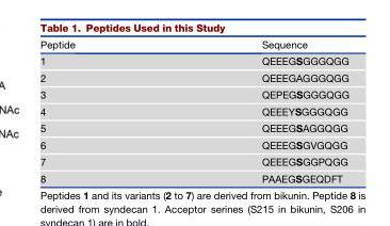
<table><thead><tr><td>Peptide</td><td>Sequence</td></tr></thead><tbody><tr><td>1</td><td>QEEEGSGGGQGG</td></tr><tr><td>2</td><td>QEEEGAGGGQGG</td></tr><tr><td>3</td><td>QEPEGSGGGQGG</td></tr><tr><td>4</td><td>QEEEYSGGGQGG</td></tr><tr><td>5</td><td>QEEEGSAGGQGG</td></tr><tr><td>6</td><td>QEEEGSGVGQGG</td></tr><tr><td>7</td><td>QEEEGSGGPQGG</td></tr><tr><td>8</td><td>PAAEGSGEQDFT</td></tr></tbody></table>